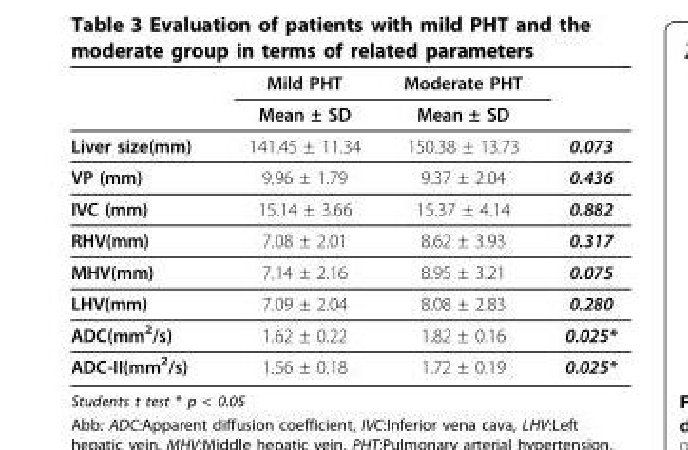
<table><thead><tr><td rowspan="2"></td><td rowspan="2">Mild PHT Mean ± SD</td><td rowspan="2">Moderate PHT Mean ± SD</td><td rowspan="2"></td></tr><tr></tr></thead><tbody><tr><td>Liver size(mm)</td><td>141.45 ± 11.34</td><td>150.38 ± 13.73</td><td>0.073</td></tr><tr><td>VP (mm)</td><td>9.96 ± 1.79</td><td>9.37 ± 2.04</td><td>0.436</td></tr><tr><td>IVC (mm)</td><td>15.14 ± 3.66</td><td>15.37 ± 4.14</td><td>0.882</td></tr><tr><td>RHV(mm)</td><td>7.08 ± 2.01</td><td>8.62 ± 3.93</td><td>0.317</td></tr><tr><td>MHV(mm)</td><td>7.14 ± 2.16</td><td>8.95 ± 3.21</td><td>0.075</td></tr><tr><td>LHV(mm)</td><td>7.09 ± 2.04</td><td>8.08 ± 2.83</td><td>0.280</td></tr><tr><td>ADC(mm<sup>2</sup>/s)</td><td>1.62 ± 0.22</td><td>1.82 ± 0.16</td><td>0.025*</td></tr><tr><td>ADC-II(mm<sup>2</sup>/s)</td><td>1.56 ± 0.18</td><td>1.72 ± 0.19</td><td>0.025*</td></tr></tbody></table>